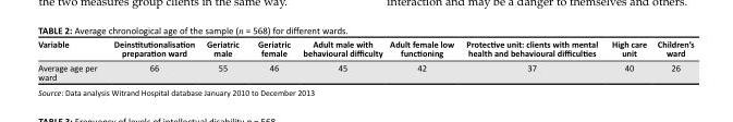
<table><thead><tr><td>Variable</td><td>Deinstitutionalisation preparation ward</td><td>Geriatric male</td><td>Geriatric female</td><td>Adult male with behavioural difficulty</td><td>Adult female low functioning</td><td>Protective unit: clients with mental health and behavioural difficulties</td><td>High care unit</td><td>Children’s ward</td></tr></thead><tbody><tr><td>Average age per ward</td><td>66</td><td>55</td><td>46</td><td>45</td><td>42</td><td>37</td><td>40</td><td>26</td></tr></tbody></table>